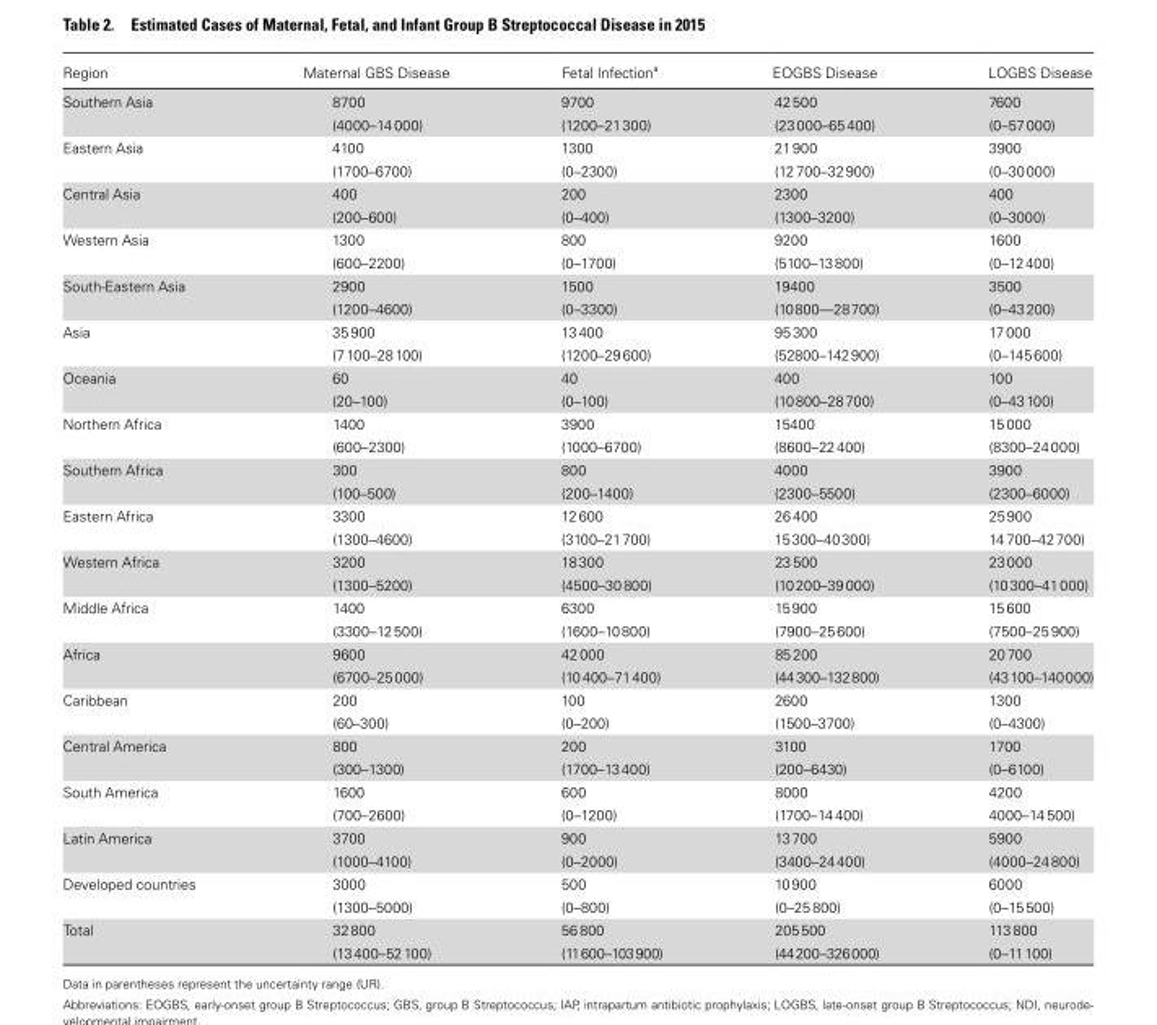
<table><thead><tr><td>Region</td><td>Maternal GBS Disease</td><td>Fetal Infection<sup>a</sup></td><td>EOGBS Disease</td><td>LOGBS Disease</td></tr></thead><tbody><tr><td rowspan="2">Southern Asia</td><td>8700</td><td>9700</td><td>42 500</td><td>7600</td></tr><tr><td>(4000–14 000)</td><td>(1200–21 300)</td><td>(23 000–65 400)</td><td>(0–57 000)</td></tr><tr><td rowspan="2">Eastern Asia</td><td>4100</td><td>1300</td><td>21 900</td><td>3900</td></tr><tr><td>(1700–6700)</td><td>(0–2300)</td><td>(12 700–32 900)</td><td>(0–30 000)</td></tr><tr><td rowspan="2">Central Asia</td><td>400</td><td>200</td><td>2300</td><td>400</td></tr><tr><td>(200–600)</td><td>(0–400)</td><td>(1300–3200)</td><td>(0–3000)</td></tr><tr><td rowspan="2">Western Asia</td><td>1300</td><td>800</td><td>9200</td><td>1600</td></tr><tr><td>(600–2200)</td><td>(0–1700)</td><td>(5100–13 800)</td><td>(0–12 400)</td></tr><tr><td rowspan="2">South-Eastern Asia</td><td>2900</td><td>1500</td><td>19400</td><td>3500</td></tr><tr><td>(1200–4600)</td><td>(0–3300)</td><td>(10 800—28 700)</td><td>(0–43 200)</td></tr><tr><td rowspan="2">Asia</td><td>35 900</td><td>13 400</td><td>95 300</td><td>17 000</td></tr><tr><td>(7 100–28 100)</td><td>(1200–29 600)</td><td>(52800–142 900)</td><td>(0–145 600)</td></tr><tr><td rowspan="2">Oceania</td><td>60</td><td>40</td><td>400</td><td>100</td></tr><tr><td>(20–100)</td><td>(0–100)</td><td>(10 800–28 700)</td><td>(0–43 100)</td></tr><tr><td rowspan="2">Northern Africa</td><td>1400</td><td>3900</td><td>15400</td><td>15 000</td></tr><tr><td>(600–2300)</td><td>(1000–6700)</td><td>(8600–22 400)</td><td>(8300–24 000)</td></tr><tr><td rowspan="2">Southern Africa</td><td>300</td><td>800</td><td>4000</td><td>3900</td></tr><tr><td>(100–500)</td><td>(200–1400)</td><td>(2300–5500)</td><td>(2300–6000)</td></tr><tr><td rowspan="2">Eastern Africa</td><td>3300</td><td>12 600</td><td>26 400</td><td>25 900</td></tr><tr><td>(1300–4600)</td><td>(3100–21 700)</td><td>15 300–40 300)</td><td>14 700–42 700)</td></tr><tr><td rowspan="2">Western Africa</td><td>3200</td><td>18 300</td><td>23 500</td><td>23 000</td></tr><tr><td>(1300–5200)</td><td>(4500–30 800)</td><td>(10 200–39 000)</td><td>(10 300–41 000)</td></tr><tr><td rowspan="2">Middle Africa</td><td>1400</td><td>6300</td><td>15 900</td><td>15 600</td></tr><tr><td>(3300–12 500)</td><td>(1600–10 800)</td><td>(7900–25 600)</td><td>(7500–25 900)</td></tr><tr><td rowspan="2">Africa</td><td>9600</td><td>42 000</td><td>85 200</td><td>20 700</td></tr><tr><td>(6700–25 000)</td><td>(10 400–71 400)</td><td>(44 300–132 800)</td><td>(43 100–140 000)</td></tr><tr><td rowspan="2">Caribbean</td><td>200</td><td>100</td><td>2600</td><td>1300</td></tr><tr><td>(60–300)</td><td>(0–200)</td><td>(1500–3700)</td><td>(0–4300)</td></tr><tr><td rowspan="2">Central America</td><td>800</td><td>200</td><td>3100</td><td>1700</td></tr><tr><td>(300–1300)</td><td>(1700–13 400)</td><td>(200–6430)</td><td>(0–6100)</td></tr><tr><td rowspan="2">South America</td><td>1600</td><td>600</td><td>8000</td><td>4200</td></tr><tr><td>(700–2600)</td><td>(0–1200)</td><td>(1700–14 400)</td><td>4000–14 500)</td></tr><tr><td rowspan="2">Latin America</td><td>3700</td><td>900</td><td>13 700</td><td>5900</td></tr><tr><td>(1000–4100)</td><td>(0–2000)</td><td>(3400–24 400)</td><td>(4000–24 800)</td></tr><tr><td rowspan="2">Developed countries</td><td>3000</td><td>500</td><td>10 900</td><td>6000</td></tr><tr><td>(1300–5000)</td><td>(0–800)</td><td>(0–25 800)</td><td>(0–15 500)</td></tr><tr><td rowspan="2">Total</td><td>32 800</td><td>56 800</td><td>205 500</td><td>113 800</td></tr><tr><td>(13 400–52 100)</td><td>(11 600–103 900)</td><td>(44 200–326 000)</td><td>(0–11 100)</td></tr></tbody></table>